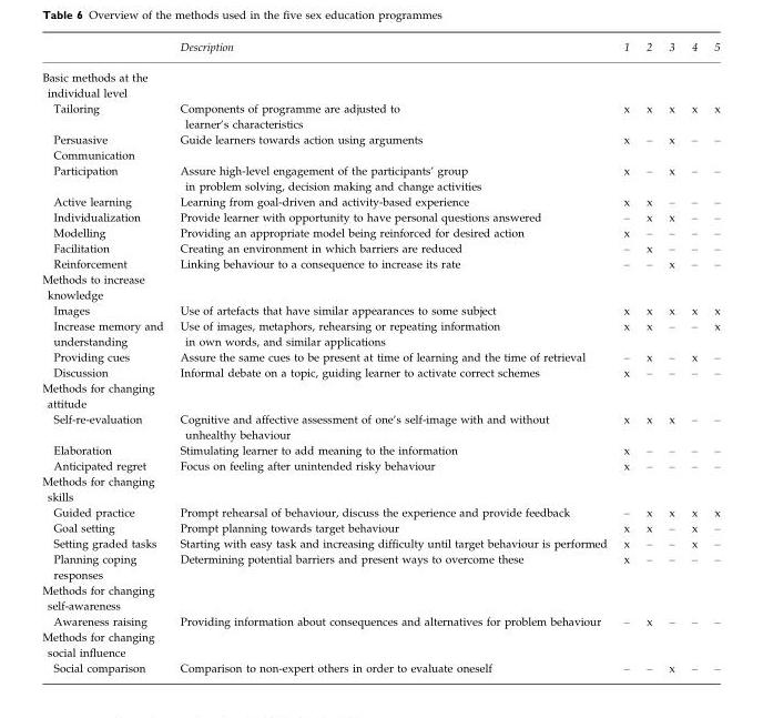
<table><thead><tr><td></td><td>Description</td><td>1</td><td>2</td><td>3</td><td>4</td><td>5</td></tr></thead><tbody><tr><td colspan="7">Basic methods at the individual level</td></tr><tr><td>Tailoring</td><td>Components of programme are adjusted to learner’s characteristics</td><td>x</td><td>x</td><td>x</td><td>x</td><td>x</td></tr><tr><td>Persuasive Communication</td><td>Guide learners towards action using arguments</td><td>x</td><td>–</td><td>x</td><td>–</td><td>–</td></tr><tr><td>Participation</td><td>Assure high-level engagement of the participants’ group in problem solving, decision making and change activities</td><td>x</td><td>–</td><td>x</td><td>–</td><td>–</td></tr><tr><td>Active learning</td><td>Learning from goal-driven and activity-based experience</td><td>x</td><td>x</td><td>–</td><td>–</td><td>–</td></tr><tr><td>Individualization</td><td>Provide learner with opportunity to have personal questions answered</td><td>–</td><td>x</td><td>x</td><td>–</td><td>–</td></tr><tr><td>Modelling</td><td>Providing an appropriate model being reinforced for desired action</td><td>x</td><td>–</td><td>–</td><td>–</td><td>–</td></tr><tr><td>Facilitation</td><td>Creating an environment in which barriers are reduced</td><td>–</td><td>x</td><td>–</td><td>–</td><td>–</td></tr><tr><td>Reinforcement</td><td>Linking behaviour to a consequence to increase its rate</td><td>–</td><td>–</td><td>x</td><td>–</td><td>–</td></tr><tr><td colspan="7">Methods to increase knowledge</td></tr><tr><td>Images</td><td>Use of artefacts that have similar appearances to some subject</td><td>x</td><td>x</td><td>x</td><td>x</td><td>x</td></tr><tr><td>Increase memory and understanding</td><td>Use of images, metaphors, rehearsing or repeating information in own words, and similar applications</td><td>x</td><td>x</td><td>–</td><td>–</td><td>x</td></tr><tr><td>Providing cues</td><td>Assure the same cues to be present at time of learning and the time of retrieval</td><td>–</td><td>x</td><td>–</td><td>x</td><td>–</td></tr><tr><td>Discussion</td><td>Informal debate on a topic, guiding learner to activate correct schemes</td><td>x</td><td>–</td><td>–</td><td>–</td><td>–</td></tr><tr><td colspan="7">Methods for changing attitude</td></tr><tr><td>Self-re-evaluation</td><td>Cognitive and affective assessment of one’s self-image with and without unhealthy behaviour</td><td>x</td><td>x</td><td>x</td><td>–</td><td>–</td></tr><tr><td>Elaboration</td><td>Stimulating learner to add meaning to the information</td><td>x</td><td>–</td><td>–</td><td>–</td><td>–</td></tr><tr><td>Anticipated regret</td><td>Focus on feeling after unintended risky behaviour</td><td>x</td><td>–</td><td>–</td><td>–</td><td>–</td></tr><tr><td colspan="7">Methods for changing skills</td></tr><tr><td>Guided practice</td><td>Prompt rehearsal of behaviour, discuss the experience and provide feedback</td><td>–</td><td>x</td><td>x</td><td>x</td><td>x</td></tr><tr><td>Goal setting</td><td>Prompt planning towards target behaviour</td><td>x</td><td>x</td><td>–</td><td>x</td><td>–</td></tr><tr><td>Setting graded tasks</td><td>Starting with easy task and increasing difficulty until target behaviour is performed</td><td>x</td><td>–</td><td>–</td><td>x</td><td>–</td></tr><tr><td>Planning coping responses</td><td>Determining potential barriers and present ways to overcome these</td><td>x</td><td>–</td><td>–</td><td>–</td><td>–</td></tr><tr><td colspan="7">Methods for changing self-awareness</td></tr><tr><td>Awareness raising</td><td>Providing information about consequences and alternatives for problem behaviour</td><td>–</td><td>x</td><td>–</td><td>–</td><td>–</td></tr><tr><td colspan="7">Methods for changing social influence</td></tr><tr><td>Social comparison</td><td>Comparison to non-expert others in order to evaluate oneself</td><td>–</td><td>–</td><td>x</td><td>–</td><td>–</td></tr></tbody></table>